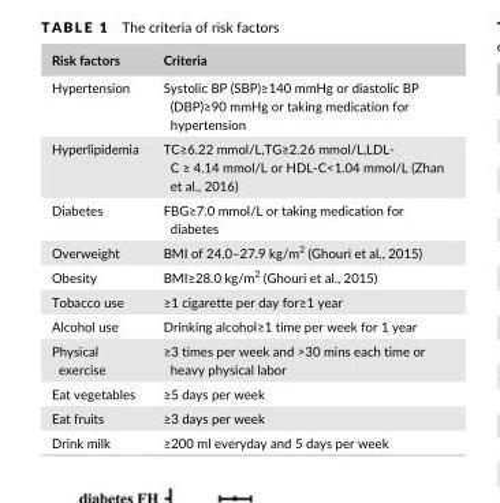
<table><thead><tr><td>Risk factors</td><td>Criteria</td></tr></thead><tbody><tr><td>Hypertension</td><td>Systolic BP (SBP)≥140 mmHg or diastolic BP (DBP)≥90 mmHg or taking medication for hypertension</td></tr><tr><td>Hyperlipidemia</td><td>TC≥6.22 mmol/L,TG≥2.26 mmol/L,LDL- C ≥ 4.14 mmol/L or HDL- C&lt;1.04 mmol/L (Zhan et al., 2016)</td></tr><tr><td>Diabetes</td><td>FBG≥7.0 mmol/L or taking medication for diabetes</td></tr><tr><td>Overweight</td><td>BMI of 24.0–27.9 kg/m<sup>2</sup> (Ghouri et al., 2015)</td></tr><tr><td>Obesity</td><td>BMI≥28.0 kg/m<sup>2</sup> (Ghouri et al., 2015)</td></tr><tr><td>Tobacco use</td><td>≥1 cigarette per day for≥1 year</td></tr><tr><td>Alcohol use</td><td>Drinking alcohol≥1 time per week for 1 year</td></tr><tr><td>Physical exercise</td><td>≥3 times per week and &gt;30 mins each time or heavy physical labor</td></tr><tr><td>Eat vegetables</td><td>≥5 days per week</td></tr><tr><td>Eat fruits</td><td>≥3 days per week</td></tr><tr><td>Drink milk</td><td>≥200 ml everyday and 5 days per week</td></tr></tbody></table>